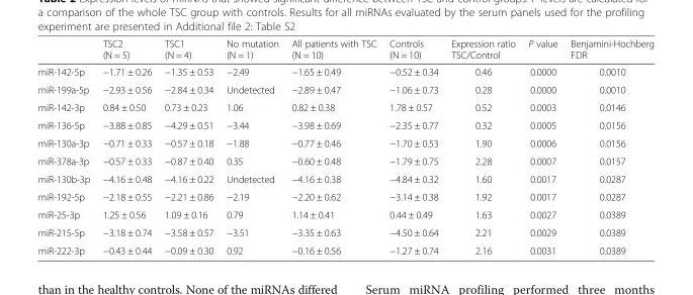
<table><thead><tr><td></td><td>TSC2 (N = 5)</td><td>TSC1 (N = 4)</td><td>No mutation (N = 1)</td><td>All patients with TSC (N = 10)</td><td>Controls (N = 10)</td><td>Expression ratio TSC/Control</td><td>P value</td><td>Benjamini-Hochberg FDR</td></tr></thead><tbody><tr><td>miR-142-5p</td><td>−1.71 ± 0.26</td><td>−1.35 ± 0.53</td><td>−2.49</td><td>−1.65 ± 0.49</td><td>−0.52 ± 0.34</td><td>0.46</td><td>0.0000</td><td>0.0010</td></tr><tr><td>miR-199a-5p</td><td>−2.93 ± 0.56</td><td>−2.84 ± 0.34</td><td>Undetected</td><td>−2.89 ± 0.47</td><td>−1.06 ± 0.73</td><td>0.28</td><td>0.0000</td><td>0.0010</td></tr><tr><td>miR-142-3p</td><td>0.84 ± 0.50</td><td>0.73 ± 0.23</td><td>1.06</td><td>0.82 ± 0.38</td><td>1.78 ± 0.57</td><td>0.52</td><td>0.0003</td><td>0.0146</td></tr><tr><td>miR-136-5p</td><td>−3.88 ± 0.85</td><td>−4.29 ± 0.51</td><td>−3.44</td><td>−3.98 ± 0.69</td><td>−2.35 ± 0.77</td><td>0.32</td><td>0.0005</td><td>0.0156</td></tr><tr><td>miR-130a-3p</td><td>−0.71 ± 0.33</td><td>−0.57 ± 0.18</td><td>−1.88</td><td>−0.77 ± 0.46</td><td>−1.70 ± 0.53</td><td>1.90</td><td>0.0006</td><td>0.0156</td></tr><tr><td>miR-378a-3p</td><td>−0.57 ± 0.33</td><td>−0.87 ± 0.40</td><td>0.35</td><td>−0.60 ± 0.48</td><td>−1.79 ± 0.75</td><td>2.28</td><td>0.0007</td><td>0.0157</td></tr><tr><td>miR-130b-3p</td><td>−4.16 ± 0.48</td><td>−4.16 ± 0.22</td><td>Undetected</td><td>−4.16 ± 0.38</td><td>−4.84 ± 0.32</td><td>1.60</td><td>0.0017</td><td>0.0287</td></tr><tr><td>miR-192-5p</td><td>−2.18 ± 0.55</td><td>−2.21 ± 0.86</td><td>−2.19</td><td>−2.20 ± 0.62</td><td>−3.14 ± 0.38</td><td>1.92</td><td>0.0017</td><td>0.0287</td></tr><tr><td>miR-25-3p</td><td>1.25 ± 0.56</td><td>1.09 ± 0.16</td><td>0.79</td><td>1.14 ± 0.41</td><td>0.44 ± 0.49</td><td>1.63</td><td>0.0027</td><td>0.0389</td></tr><tr><td>miR-215-5p</td><td>−3.18 ± 0.74</td><td>−3.58 ± 0.57</td><td>−3.51</td><td>−3.35 ± 0.63</td><td>−4.50 ± 0.64</td><td>2.21</td><td>0.0029</td><td>0.0389</td></tr><tr><td>miR-222-3p</td><td>−0.43 ± 0.44</td><td>−0.09 ± 0.30</td><td>0.92</td><td>−0.16 ± 0.56</td><td>−1.27 ± 0.74</td><td>2.16</td><td>0.0031</td><td>0.0389</td></tr></tbody></table>